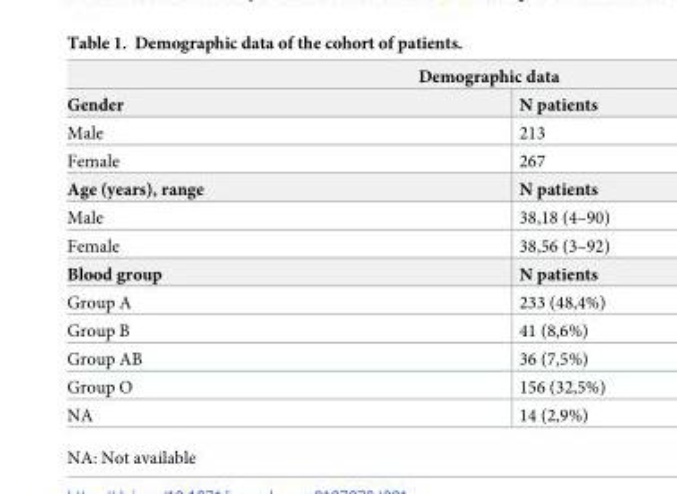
<table><thead><tr><td colspan="2">Demographic data</td></tr><tr><td>Gender</td><td>N patients</td></tr></thead><tbody><tr><td>Male</td><td>213</td></tr><tr><td>Female</td><td>267</td></tr><tr><td>Age (years), range</td><td>N patients</td></tr><tr><td>Male</td><td>38,18 (4–90)</td></tr><tr><td>Female</td><td>38,56 (3–92)</td></tr><tr><td>Blood group</td><td>N patients</td></tr><tr><td>Group A</td><td>233 (48,4%)</td></tr><tr><td>Group B</td><td>41 (8,6%)</td></tr><tr><td>Group AB</td><td>36 (7,5%)</td></tr><tr><td>Group O</td><td>156 (32,5%)</td></tr><tr><td>NA</td><td>14 (2,9%)</td></tr></tbody></table>